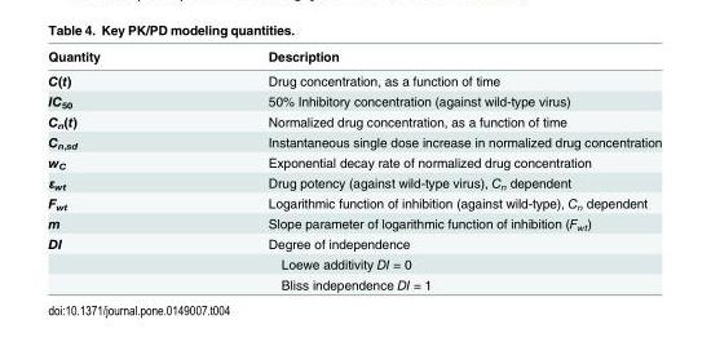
<table><thead><tr><td>Quantity</td><td>Description</td></tr></thead><tbody><tr><td>C(t)</td><td>Drug concentration, as a function of time</td></tr><tr><td>IC<sub>50</sub></td><td>50% Inhibitory concentration (against wild-type virus)</td></tr><tr><td>C<sub>n</sub>(t)</td><td>Normalized drug concentration, as a function of time</td></tr><tr><td>C<sub>n,sd</sub></td><td>Instantaneous single dose increase in normalized drug concentration</td></tr><tr><td>w<sub>C</sub></td><td>Exponential decay rate of normalized drug concentration</td></tr><tr><td>ε<sub>wt</sub></td><td>Drug potency (against wild-type virus), C<sub>n</sub> dependent</td></tr><tr><td>F<sub>wt</sub></td><td>Logarithmic function of inhibition (against wild-type), C<sub>n</sub> dependent</td></tr><tr><td>m</td><td>Slope parameter of logarithmic function of inhibition (F<sub>wt</sub>)</td></tr><tr><td rowspan="3">DI</td><td>Degree of independence</td></tr><tr><td>Loewe additivity DI = 0</td></tr><tr><td>Bliss independence DI = 1</td></tr></tbody></table>